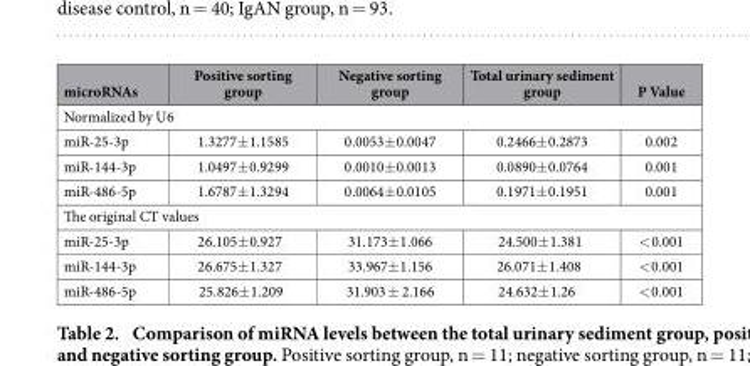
<table><thead><tr><td>microRNAs</td><td>Positive sorting group</td><td>Negative sorting group</td><td>Total urinary sediment group</td><td>P Value</td></tr></thead><tbody><tr><td colspan="5">Normalized by U6</td></tr><tr><td>miR-25-3p</td><td>1.3277± 1.1585</td><td>0.0053± 0.0047</td><td>0.2466± 0.2873</td><td>0.002</td></tr><tr><td>miR-144-3p</td><td>1.0497± 0.9299</td><td>0.0010± 0.0013</td><td>0.0890± 0.0764</td><td>0.001</td></tr><tr><td>miR-486-5p</td><td>1.6787± 1.3294</td><td>0.0064± 0.0105</td><td>0.1971± 0.1951</td><td>0.001</td></tr><tr><td colspan="5">The original CT values</td></tr><tr><td>miR-25-3p</td><td>26.105± 0.927</td><td>31.173± 1.066</td><td>24.500± 1.381</td><td>&lt; 0.001</td></tr><tr><td>miR-144-3p</td><td>26.675± 1.327</td><td>33.967± 1.156</td><td>26.071± 1.408</td><td>&lt; 0.001</td></tr><tr><td>miR-486-5p</td><td>25.826± 1.209</td><td>31.903 ± 2.166</td><td>24.632± 1.26</td><td>&lt; 0.001</td></tr></tbody></table>